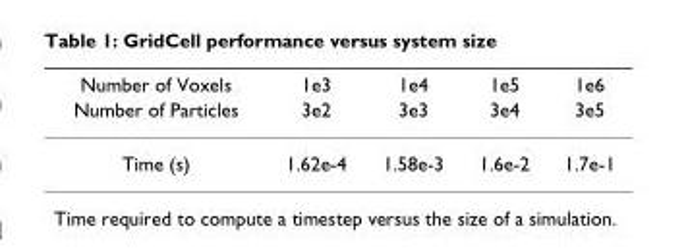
<table><thead><tr><td rowspan="2">Number of Voxels Number of Particles</td><td rowspan="2">1e3 3e2</td><td rowspan="2">1e4 3e3</td><td rowspan="2">1e5 3e4</td><td rowspan="2">1e6 3e5</td></tr><tr></tr></thead><tbody><tr><td>Time (s)</td><td>1.62e-4</td><td>1.58e-3</td><td>1.6e-2</td><td>1.7e-1</td></tr></tbody></table>